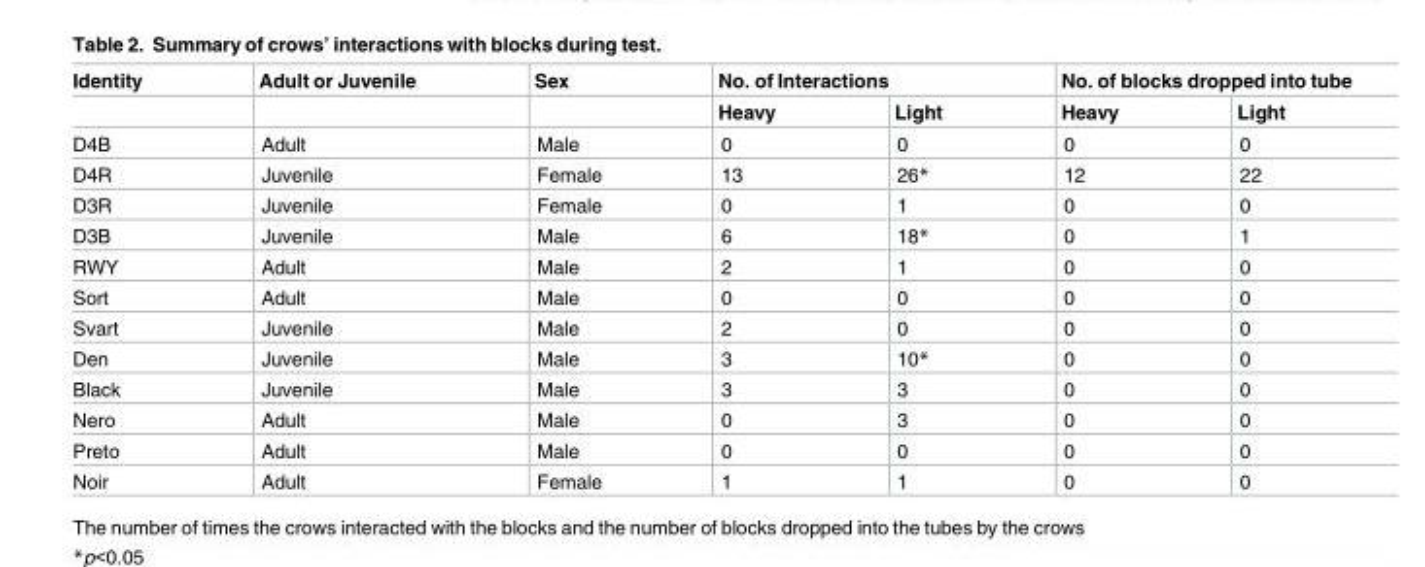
<table><thead><tr><td rowspan="2">Identity</td><td rowspan="2">Adult or Juvenile</td><td rowspan="2">Sex</td><td colspan="2">No. of Interactions</td><td colspan="2">No. of blocks dropped into tube</td></tr><tr><td>Heavy</td><td>Light</td><td>Heavy</td><td>Light</td></tr></thead><tbody><tr><td>D4B</td><td>Adult</td><td>Male</td><td>0</td><td>0</td><td>0</td><td>0</td></tr><tr><td>D4R</td><td>Juvenile</td><td>Female</td><td>13</td><td>26*</td><td>12</td><td>22</td></tr><tr><td>D3R</td><td>Juvenile</td><td>Female</td><td>0</td><td>1</td><td>0</td><td>0</td></tr><tr><td>D3B</td><td>Juvenile</td><td>Male</td><td>6</td><td>18*</td><td>0</td><td>1</td></tr><tr><td>RWY</td><td>Adult</td><td>Male</td><td>2</td><td>1</td><td>0</td><td>0</td></tr><tr><td>Sort</td><td>Adult</td><td>Male</td><td>0</td><td>0</td><td>0</td><td>0</td></tr><tr><td>Svart</td><td>Juvenile</td><td>Male</td><td>2</td><td>0</td><td>0</td><td>0</td></tr><tr><td>Den</td><td>Juvenile</td><td>Male</td><td>3</td><td>10*</td><td>0</td><td>0</td></tr><tr><td>Black</td><td>Juvenile</td><td>Male</td><td>3</td><td>3</td><td>0</td><td>0</td></tr><tr><td>Nero</td><td>Adult</td><td>Male</td><td>0</td><td>3</td><td>0</td><td>0</td></tr><tr><td>Preto</td><td>Adult</td><td>Male</td><td>0</td><td>0</td><td>0</td><td>0</td></tr><tr><td>Noir</td><td>Adult</td><td>Female</td><td>1</td><td>1</td><td>0</td><td>0</td></tr></tbody></table>